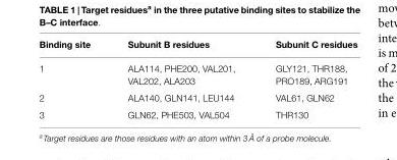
<table><thead><tr><td>Binding site</td><td>Subunit B residues</td><td>Subunit C residues</td></tr></thead><tbody><tr><td>1</td><td>ALA114, PHE200, VAL201, VAL202, ALA203</td><td>GLY121, THR188, PRO189, ARG191</td></tr><tr><td>2</td><td>ALA140, GLN141, LEU144</td><td>VAL61, GLN62</td></tr><tr><td>3</td><td>GLN62, PHE503, VAL504</td><td>THR130</td></tr></tbody></table>